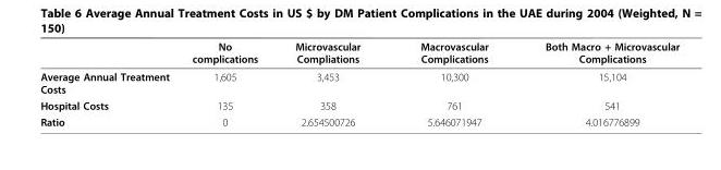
<table><thead><tr><td></td><td>No complications</td><td>Microvascular Compliations</td><td>Macrovascular Complications</td><td>Both Macro + Microvascular Complications</td></tr></thead><tbody><tr><td>Average Annual Treatment Costs</td><td>1,605</td><td>3,453</td><td>10,300</td><td>15,104</td></tr><tr><td>Hospital Costs</td><td>135</td><td>358</td><td>761</td><td>541</td></tr><tr><td>Ratio</td><td>0</td><td>2.654500726</td><td>5.646071947</td><td>4.016776899</td></tr></tbody></table>